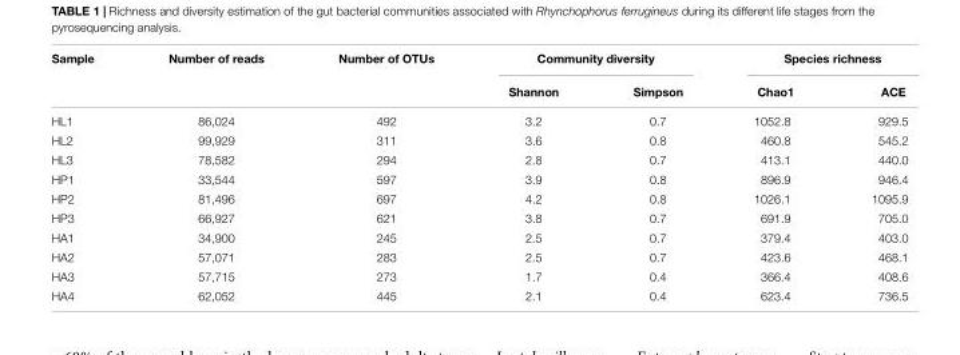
<table><thead><tr><td rowspan="2">Sample</td><td rowspan="2">Number of reads</td><td rowspan="2">Number of OTUs</td><td colspan="2">Community diversity</td><td colspan="2">Species richness</td></tr><tr><td>Shannon</td><td>Simpson</td><td>Chao1</td><td>ACE</td></tr></thead><tbody><tr><td>HL1</td><td>86,024</td><td>492</td><td>3.2</td><td>0.7</td><td>1052.8</td><td>929.5</td></tr><tr><td>HL2</td><td>99,929</td><td>311</td><td>3.6</td><td>0.8</td><td>460.8</td><td>545.2</td></tr><tr><td>HL3</td><td>78,582</td><td>294</td><td>2.8</td><td>0.7</td><td>413.1</td><td>440.0</td></tr><tr><td>HP1</td><td>33,544</td><td>597</td><td>3.9</td><td>0.8</td><td>896.9</td><td>946.4</td></tr><tr><td>HP2</td><td>81,496</td><td>697</td><td>4.2</td><td>0.8</td><td>1026.1</td><td>1095.9</td></tr><tr><td>HP3</td><td>66,927</td><td>621</td><td>3.8</td><td>0.7</td><td>691.9</td><td>705.0</td></tr><tr><td>HA1</td><td>34,900</td><td>245</td><td>2.5</td><td>0.7</td><td>379.4</td><td>403.0</td></tr><tr><td>HA2</td><td>57,071</td><td>283</td><td>2.5</td><td>0.7</td><td>423.6</td><td>468.1</td></tr><tr><td>HA3</td><td>57,715</td><td>273</td><td>1.7</td><td>0.4</td><td>366.4</td><td>408.6</td></tr><tr><td>HA4</td><td>62,052</td><td>445</td><td>2.1</td><td>0.4</td><td>623.4</td><td>736.5</td></tr></tbody></table>